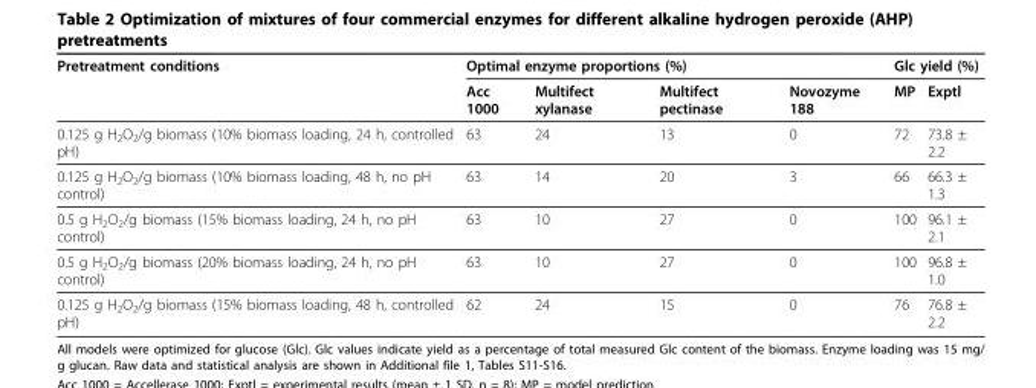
<table><thead><tr><td rowspan="2">Pretreatment conditions</td><td colspan="4">Optimal enzyme proportions (%)</td><td colspan="2">Glc yield (%)</td></tr><tr><td>Acc 1000</td><td>Multifect xylanase</td><td>Multifect pectinase</td><td>Novozyme 188</td><td>MP</td><td>Exptl</td></tr></thead><tbody><tr><td>0.125 g H<sub>2</sub>O<sub>2</sub>/g biomass (10% biomass loading, 24 h, controlled pH)</td><td>63</td><td>24</td><td>13</td><td>0</td><td>72</td><td>73.8 ± 2.2</td></tr><tr><td>0.125 g H<sub>2</sub>O<sub>2</sub>/g biomass (10% biomass loading, 48 h, no pH control)</td><td>63</td><td>14</td><td>20</td><td>3</td><td>66</td><td>66.3 ± 1.3</td></tr><tr><td>0.5 g H<sub>2</sub>O<sub>2</sub>/g biomass (15% biomass loading, 24 h, no pH control)</td><td>63</td><td>10</td><td>27</td><td>0</td><td>100</td><td>96.1 ± 2.1</td></tr><tr><td>0.5 g H<sub>2</sub>O<sub>2</sub>/g biomass (20% biomass loading, 24 h, no pH control)</td><td>63</td><td>10</td><td>27</td><td>0</td><td>100</td><td>96.8 ± 1.0</td></tr><tr><td>0.125 g H<sub>2</sub>O<sub>2</sub>/g biomass (15% biomass loading, 48 h, controlled pH)</td><td>62</td><td>24</td><td>15</td><td>0</td><td>76</td><td>76.8 ± 2.2</td></tr></tbody></table>